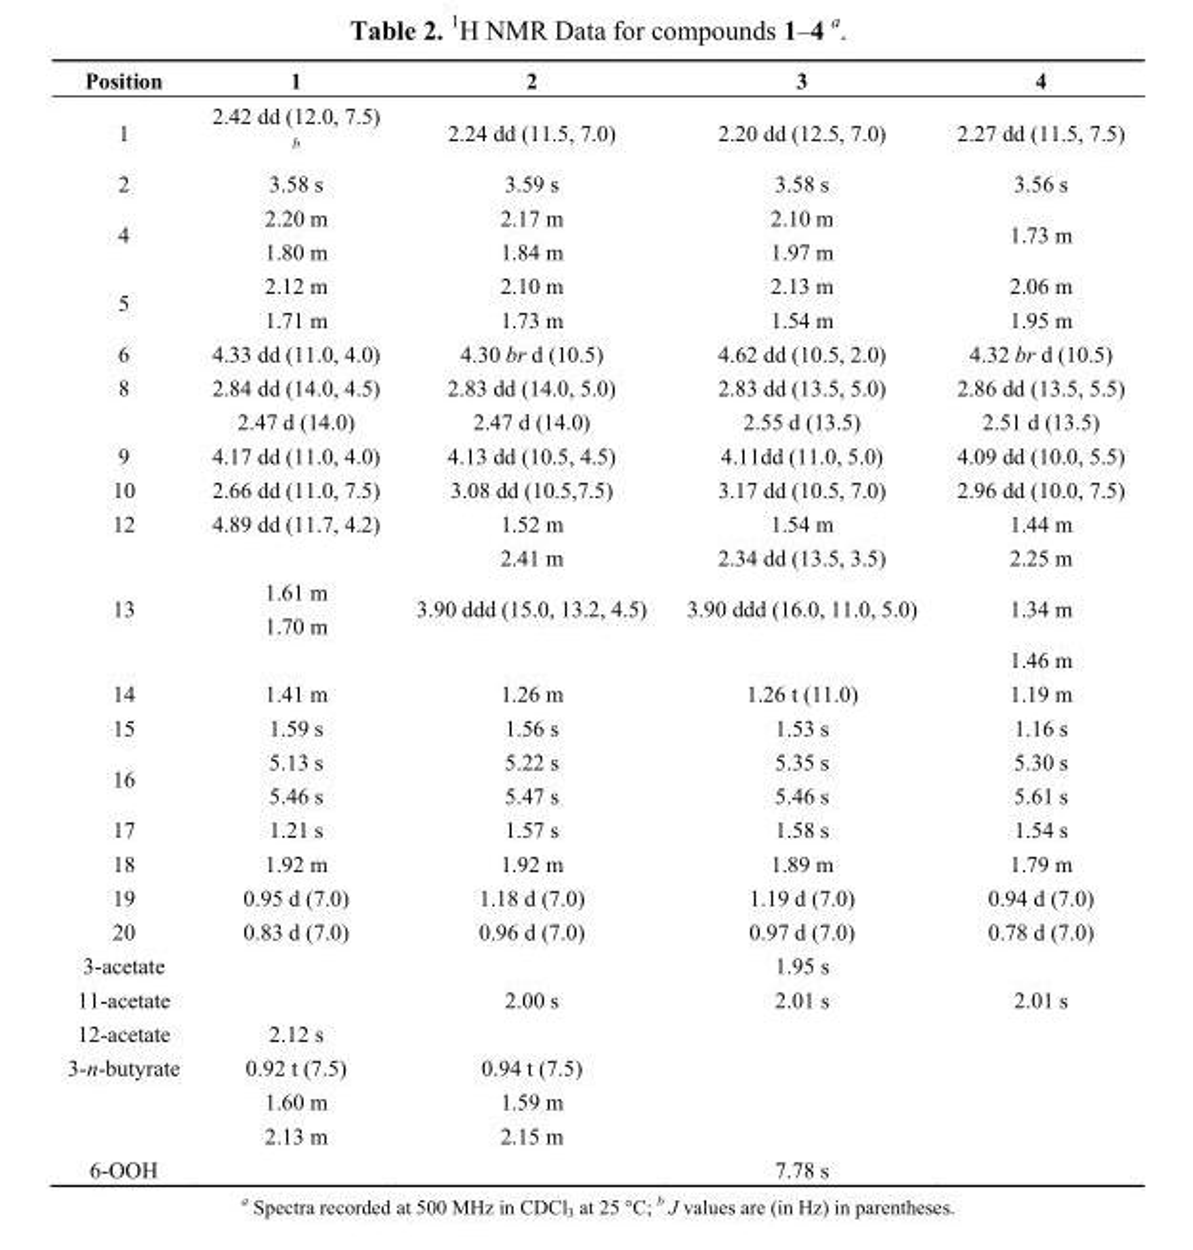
<table><thead><tr><td>Position</td><td>1</td><td>2</td><td>3</td><td>4</td></tr></thead><tbody><tr><td>1</td><td>2.42 dd (12.0, 7.5) <sup>b</sup></td><td>2.24 dd (11.5, 7.0)</td><td>2.20 dd (12.5, 7.0)</td><td>2.27 dd (11.5, 7.5)</td></tr><tr><td>2</td><td>3.58 s</td><td>3.59 s</td><td>3.58 s</td><td>3.56 s</td></tr><tr><td>4</td><td>2.20 m 1.80 m</td><td>2.17 m 1.84 m</td><td>2.10 m 1.97 m</td><td>1.73 m</td></tr><tr><td>5</td><td>2.12 m 1.71 m</td><td>2.10 m 1.73 m</td><td>2.13 m 1.54 m</td><td>2.06 m 1.95 m</td></tr><tr><td>6</td><td>4.33 dd (11.0, 4.0)</td><td>4.30 br d (10.5)</td><td>4.62 dd (10.5, 2.0)</td><td>4.32 br d (10.5)</td></tr><tr><td rowspan="2">8</td><td>2.84 dd (14.0, 4.5)</td><td>2.83 dd (14.0, 5.0)</td><td>2.83 dd (13.5, 5.0)</td><td>2.86 dd (13.5, 5.5)</td></tr><tr><td>2.47 d (14.0)</td><td>2.47 d (14.0)</td><td>2.55 d (13.5)</td><td>2.51 d (13.5)</td></tr><tr><td>9</td><td>4.17 dd (11.0, 4.0)</td><td>4.13 dd (10.5, 4.5)</td><td>4.11dd (11.0, 5.0)</td><td>4.09 dd (10.0, 5.5)</td></tr><tr><td>10</td><td>2.66 dd (11.0, 7.5)</td><td>3.08 dd (10.5,7.5)</td><td>3.17 dd (10.5, 7.0)</td><td>2.96 dd (10.0, 7.5)</td></tr><tr><td rowspan="2">12</td><td>4.89 dd (11.7, 4.2)</td><td>1.52 m</td><td>1.54 m</td><td>1.44 m</td></tr><tr><td></td><td>2.41 m</td><td>2.34 dd (13.5, 3.5)</td><td>2.25 m</td></tr><tr><td rowspan="2">13</td><td>1.61 m 1.70 m</td><td>3.90 ddd (15.0, 13.2, 4.5)</td><td>3.90 ddd (16.0, 11.0, 5.0)</td><td>1.34 m</td></tr><tr><td></td><td></td><td></td><td>1.46 m</td></tr><tr><td>14</td><td>1.41 m</td><td>1.26 m</td><td>1.26 t (11.0)</td><td>1.19 m</td></tr><tr><td>15</td><td>1.59 s</td><td>1.56 s</td><td>1.53 s</td><td>1.16 s</td></tr><tr><td>16</td><td>5.13 s 5.46 s</td><td>5.22 s 5.47 s</td><td>5.35 s 5.46 s</td><td>5.30 s 5.61 s</td></tr><tr><td>17</td><td>1.21 s</td><td>1.57 s</td><td>1.58 s</td><td>1.54 s</td></tr><tr><td>18</td><td>1.92 m</td><td>1.92 m</td><td>1.89 m</td><td>1.79 m</td></tr><tr><td>19</td><td>0.95 d (7.0)</td><td>1.18 d (7.0)</td><td>1.19 d (7.0)</td><td>0.94 d (7.0)</td></tr><tr><td>20</td><td>0.83 d (7.0)</td><td>0.96 d (7.0)</td><td>0.97 d (7.0)</td><td>0.78 d (7.0)</td></tr><tr><td>3-acetate</td><td></td><td></td><td>1.95 s</td><td></td></tr><tr><td>11-acetate</td><td></td><td>2.00 s</td><td>2.01 s</td><td>2.01 s</td></tr><tr><td>12-acetate</td><td>2.12 s</td><td></td><td></td><td></td></tr><tr><td rowspan="3">3-n-butyrate</td><td>0.92 t (7.5)</td><td>0.94 t (7.5)</td><td></td><td></td></tr><tr><td>1.60 m</td><td>1.59 m</td><td></td><td></td></tr><tr><td>2.13 m</td><td>2.15 m</td><td></td><td></td></tr><tr><td>6-OOH</td><td></td><td></td><td>7.78 s</td><td></td></tr></tbody></table>